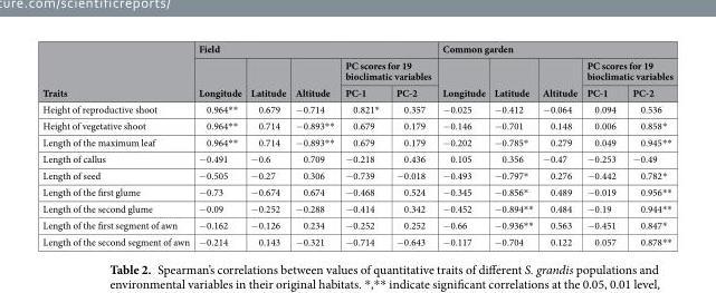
<table><thead><tr><td rowspan="3">Traits</td><td colspan="5">Field</td><td colspan="5">Common garden</td></tr><tr><td rowspan="2">Longitude</td><td rowspan="2">Latitude</td><td rowspan="2">Altitude</td><td colspan="2">PC scores for 19 bioclimatic variables</td><td rowspan="2">Longitude</td><td rowspan="2">Latitude</td><td rowspan="2">Altitude</td><td colspan="2">PC scores for 19 bioclimatic variables</td></tr><tr><td>PC-1</td><td>PC-2</td><td>PC-1</td><td>PC-2</td></tr></thead><tbody><tr><td>Height of reproductive shoot</td><td>0.964**</td><td>0.679</td><td>−0.714</td><td>0.821*</td><td>0.357</td><td>−0.025</td><td>−0.412</td><td>−0.064</td><td>0.094</td><td>0.536</td></tr><tr><td>Height of vegetative shoot</td><td>0.964**</td><td>0.714</td><td>−0.893**</td><td>0.679</td><td>0.179</td><td>−0.146</td><td>−0.701</td><td>0.148</td><td>0.006</td><td>0.858*</td></tr><tr><td>Length of the maximum leaf</td><td>0.964**</td><td>0.714</td><td>−0.893**</td><td>0.679</td><td>0.179</td><td>−0.202</td><td>−0.785*</td><td>0.279</td><td>0.049</td><td>0.945**</td></tr><tr><td>Length of callus</td><td>−0.491</td><td>−0.6</td><td>0.709</td><td>−0.218</td><td>0.436</td><td>0.105</td><td>0.356</td><td>−0.47</td><td>−0.253</td><td>−0.49</td></tr><tr><td>Length of seed</td><td>−0.505</td><td>−0.27</td><td>0.306</td><td>−0.739</td><td>−0.018</td><td>−0.493</td><td>−0.797*</td><td>0.276</td><td>−0.442</td><td>0.782*</td></tr><tr><td>Length of the first glume</td><td>−0.73</td><td>−0.674</td><td>0.674</td><td>−0.468</td><td>0.524</td><td>−0.345</td><td>−0.856*</td><td>0.489</td><td>−0.019</td><td>0.956**</td></tr><tr><td>Length of the second glume</td><td>−0.09</td><td>−0.252</td><td>−0.288</td><td>−0.414</td><td>0.342</td><td>−0.452</td><td>−0.894**</td><td>0.484</td><td>−0.19</td><td>0.944**</td></tr><tr><td>Length of the first segment of awn</td><td>−0.162</td><td>−0.126</td><td>0.234</td><td>−0.252</td><td>0.252</td><td>−0.66</td><td>−0.936**</td><td>0.563</td><td>−0.451</td><td>0.847*</td></tr><tr><td>Length of the second segment of awn</td><td>−0.214</td><td>0.143</td><td>−0.321</td><td>−0.714</td><td>−0.643</td><td>−0.117</td><td>−0.704</td><td>0.122</td><td>0.057</td><td>0.878**</td></tr></tbody></table>